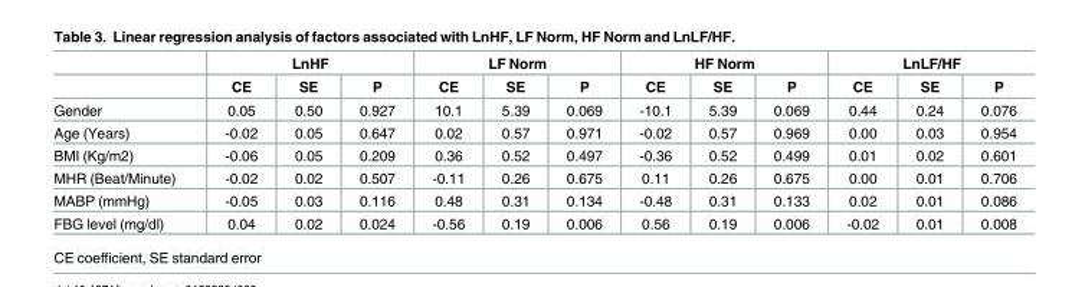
<table><thead><tr><td rowspan="2"></td><td colspan="3">LnHF</td><td colspan="3">LF Norm</td><td colspan="3">HF Norm</td><td colspan="3">LnLF/HF</td></tr><tr><td>CE</td><td>SE</td><td>P</td><td>CE</td><td>SE</td><td>P</td><td>CE</td><td>SE</td><td>P</td><td>CE</td><td>SE</td><td>P</td></tr></thead><tbody><tr><td>Gender</td><td>0.05</td><td>0.50</td><td>0.927</td><td>10.1</td><td>5.39</td><td>0.069</td><td>-10.1</td><td>5.39</td><td>0.069</td><td>0.44</td><td>0.24</td><td>0.076</td></tr><tr><td>Age (Years)</td><td>-0.02</td><td>0.05</td><td>0.647</td><td>0.02</td><td>0.57</td><td>0.971</td><td>-0.02</td><td>0.57</td><td>0.969</td><td>0.00</td><td>0.03</td><td>0.954</td></tr><tr><td>BMI (Kg/m2)</td><td>-0.06</td><td>0.05</td><td>0.209</td><td>0.36</td><td>0.52</td><td>0.497</td><td>-0.36</td><td>0.52</td><td>0.499</td><td>0.01</td><td>0.02</td><td>0.601</td></tr><tr><td>MHR (Beat/Minute)</td><td>-0.02</td><td>0.02</td><td>0.507</td><td>-0.11</td><td>0.26</td><td>0.675</td><td>0.11</td><td>0.26</td><td>0.675</td><td>0.00</td><td>0.01</td><td>0.706</td></tr><tr><td>MABP (mmHg)</td><td>-0.05</td><td>0.03</td><td>0.116</td><td>0.48</td><td>0.31</td><td>0.134</td><td>-0.48</td><td>0.31</td><td>0.133</td><td>0.02</td><td>0.01</td><td>0.086</td></tr><tr><td>FBG level (mg/dl)</td><td>0.04</td><td>0.02</td><td>0.024</td><td>-0.56</td><td>0.19</td><td>0.006</td><td>0.56</td><td>0.19</td><td>0.006</td><td>-0.02</td><td>0.01</td><td>0.008</td></tr></tbody></table>